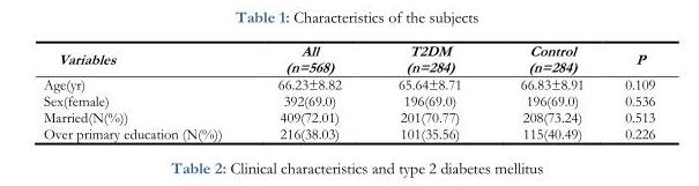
<table><thead><tr><td>Variables</td><td>All (n=568)</td><td>T2DM (n=284)</td><td>Control (n=284)</td><td>P</td></tr></thead><tbody><tr><td>Age(yr)</td><td>66.23±8.82</td><td>65.64±8.71</td><td>66.83±8.91</td><td>0.109</td></tr><tr><td>Sex(female)</td><td>392(69.0)</td><td>196(69.0)</td><td>196(69.0)</td><td>0.536</td></tr><tr><td>Married(N(%))</td><td>409(72.01)</td><td>201(70.77)</td><td>208(73.24)</td><td>0.513</td></tr><tr><td>Over primary education (N(%))</td><td>216(38.03)</td><td>101(35.56)</td><td>115(40.49)</td><td>0.226</td></tr></tbody></table>